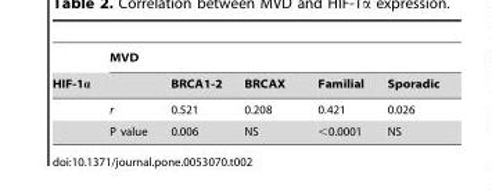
<table><thead><tr><td rowspan="2">HIF-1α</td><td colspan="5">MVD</td></tr><tr><td></td><td>BRCA1-2</td><td>BRCAX</td><td>Familial</td><td>Sporadic</td></tr></thead><tbody><tr><td></td><td>r</td><td>0.521</td><td>0.208</td><td>0.421</td><td>0.026</td></tr><tr><td></td><td>P value</td><td>0.006</td><td>NS</td><td>&lt;0.0001</td><td>NS</td></tr></tbody></table>